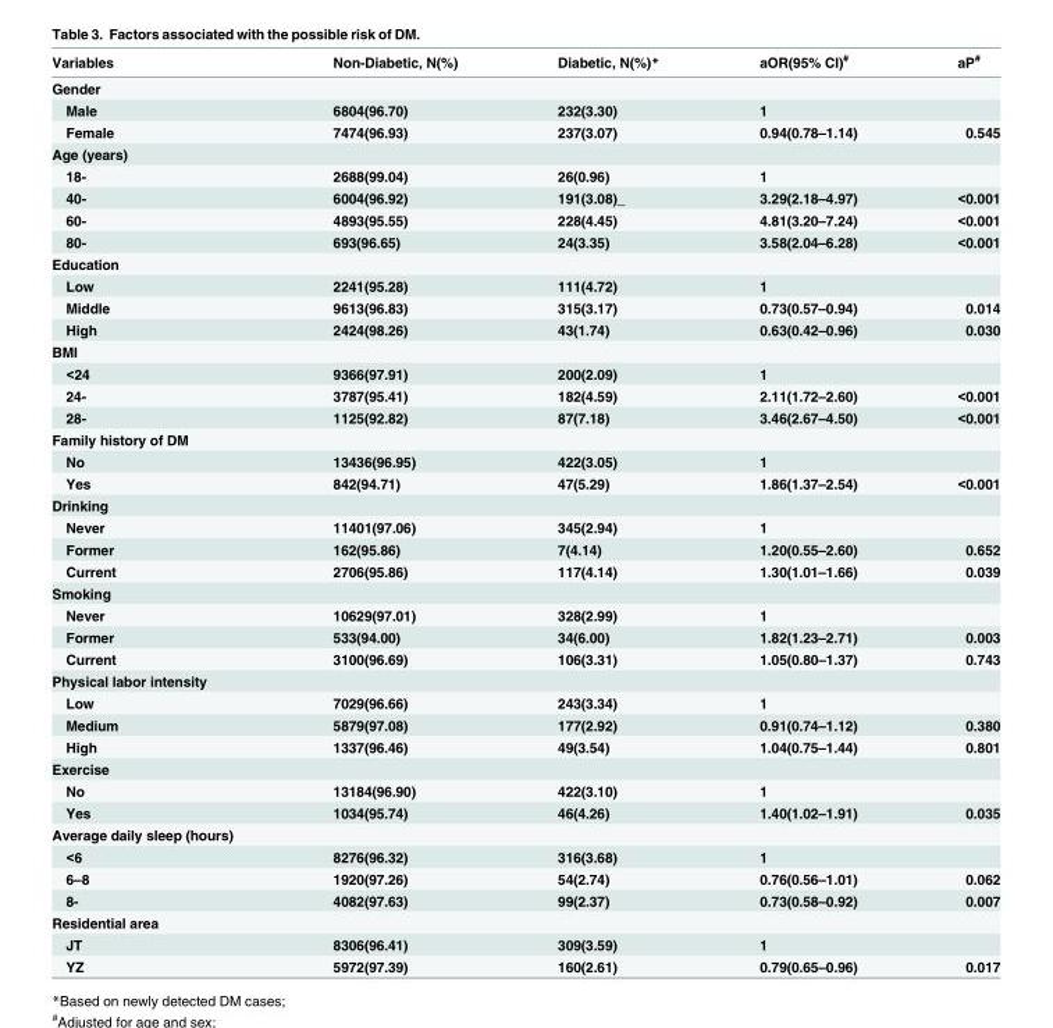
<table><thead><tr><td>Variables</td><td>Non-Diabetic, N(%)</td><td>Diabetic, N(%)*</td><td>aOR(95% CI)<sup>#</sup></td><td>aP<sup>#</sup></td></tr></thead><tbody><tr><td colspan="5">Gender</td></tr><tr><td>Male</td><td>6804(96.70)</td><td>232(3.30)</td><td>1</td><td></td></tr><tr><td>Female</td><td>7474(96.93)</td><td>237(3.07)</td><td>0.94(0.78–1.14)</td><td>0.545</td></tr><tr><td colspan="5">Age (years)</td></tr><tr><td>18-</td><td>2688(99.04)</td><td>26(0.96)</td><td>1</td><td></td></tr><tr><td>40-</td><td>6004(96.92)</td><td>191(3.08)_</td><td>3.29(2.18–4.97)</td><td>&lt;0.001</td></tr><tr><td>60-</td><td>4893(95.55)</td><td>228(4.45)</td><td>4.81(3.20–7.24)</td><td>&lt;0.001</td></tr><tr><td>80-</td><td>693(96.65)</td><td>24(3.35)</td><td>3.58(2.04–6.28)</td><td>&lt;0.001</td></tr><tr><td colspan="5">Education</td></tr><tr><td>Low</td><td>2241(95.28)</td><td>111(4.72)</td><td>1</td><td></td></tr><tr><td>Middle</td><td>9613(96.83)</td><td>315(3.17)</td><td>0.73(0.57–0.94)</td><td>0.014</td></tr><tr><td>High</td><td>2424(98.26)</td><td>43(1.74)</td><td>0.63(0.42–0.96)</td><td>0.030</td></tr><tr><td colspan="5">BMI</td></tr><tr><td>&lt;24</td><td>9366(97.91)</td><td>200(2.09)</td><td>1</td><td></td></tr><tr><td>24-</td><td>3787(95.41)</td><td>182(4.59)</td><td>2.11(1.72–2.60)</td><td>&lt;0.001</td></tr><tr><td>28-</td><td>1125(92.82)</td><td>87(7.18)</td><td>3.46(2.67–4.50)</td><td>&lt;0.001</td></tr><tr><td colspan="5">Family history of DM</td></tr><tr><td>No</td><td>13436(96.95)</td><td>422(3.05)</td><td>1</td><td></td></tr><tr><td>Yes</td><td>842(94.71)</td><td>47(5.29)</td><td>1.86(1.37–2.54)</td><td>&lt;0.001</td></tr><tr><td colspan="5">Drinking</td></tr><tr><td>Never</td><td>11401(97.06)</td><td>345(2.94)</td><td>1</td><td></td></tr><tr><td>Former</td><td>162(95.86)</td><td>7(4.14)</td><td>1.20(0.55–2.60)</td><td>0.652</td></tr><tr><td>Current</td><td>2706(95.86)</td><td>117(4.14)</td><td>1.30(1.01–1.66)</td><td>0.039</td></tr><tr><td colspan="5">Smoking</td></tr><tr><td>Never</td><td>10629(97.01)</td><td>328(2.99)</td><td>1</td><td></td></tr><tr><td>Former</td><td>533(94.00)</td><td>34(6.00)</td><td>1.82(1.23–2.71)</td><td>0.003</td></tr><tr><td>Current</td><td>3100(96.69)</td><td>106(3.31)</td><td>1.05(0.80–1.37)</td><td>0.743</td></tr><tr><td colspan="5">Physical labor intensity</td></tr><tr><td>Low</td><td>7029(96.66)</td><td>243(3.34)</td><td>1</td><td></td></tr><tr><td>Medium</td><td>5879(97.08)</td><td>177(2.92)</td><td>0.91(0.74–1.12)</td><td>0.380</td></tr><tr><td>High</td><td>1337(96.46)</td><td>49(3.54)</td><td>1.04(0.75–1.44)</td><td>0.801</td></tr><tr><td colspan="5">Exercise</td></tr><tr><td>No</td><td>13184(96.90)</td><td>422(3.10)</td><td>1</td><td></td></tr><tr><td>Yes</td><td>1034(95.74)</td><td>46(4.26)</td><td>1.40(1.02–1.91)</td><td>0.035</td></tr><tr><td colspan="5">Average daily sleep (hours)</td></tr><tr><td>&lt;6</td><td>8276(96.32)</td><td>316(3.68)</td><td>1</td><td></td></tr><tr><td>6–8</td><td>1920(97.26)</td><td>54(2.74)</td><td>0.76(0.56–1.01)</td><td>0.062</td></tr><tr><td>8-</td><td>4082(97.63)</td><td>99(2.37)</td><td>0.73(0.58–0.92)</td><td>0.007</td></tr><tr><td colspan="5">Residential area</td></tr><tr><td>JT</td><td>8306(96.41)</td><td>309(3.59)</td><td>1</td><td></td></tr><tr><td>YZ</td><td>5972(97.39)</td><td>160(2.61)</td><td>0.79(0.65–0.96)</td><td>0.017</td></tr></tbody></table>